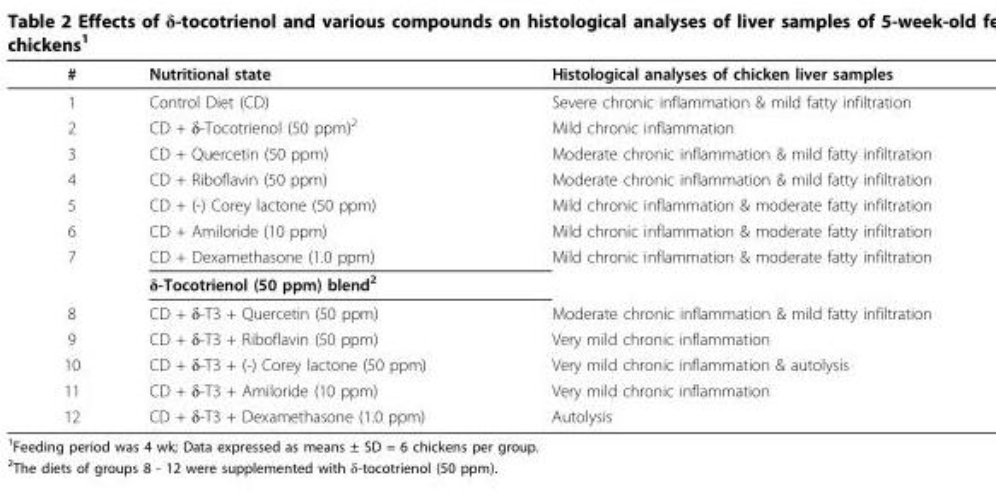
<table><thead><tr><td>#</td><td>Nutritional state</td><td>Histological analyses of chicken liver samples</td></tr></thead><tbody><tr><td>1</td><td>Control Diet (CD)</td><td>Severe chronic inflammation &amp; mild fatty infiltration</td></tr><tr><td>2</td><td>CD + δ-Tocotrienol (50 ppm)<sup>2</sup></td><td>Mild chronic inflammation</td></tr><tr><td>3</td><td>CD + Quercetin (50 ppm)</td><td>Moderate chronic inflammation &amp; mild fatty infiltration</td></tr><tr><td>4</td><td>CD + Riboflavin (50 ppm)</td><td>Moderate chronic inflammation &amp; mild fatty infiltration</td></tr><tr><td>5</td><td>CD + (-) Corey lactone (50 ppm)</td><td>Mild chronic inflammation &amp; moderate fatty infiltration</td></tr><tr><td>6</td><td>CD + Amiloride (10 ppm)</td><td>Mild chronic inflammation &amp; moderate fatty infiltration</td></tr><tr><td rowspan="2">7</td><td>CD + Dexamethasone (1.0 ppm)</td><td>Mild chronic inflammation &amp; moderate fatty infiltration</td></tr><tr><td>δ-Tocotrienol (50 ppm) blend<sup>2</sup></td><td></td></tr><tr><td>8</td><td>CD + δ-T3 + Quercetin (50 ppm)</td><td>Moderate chronic inflammation &amp; mild fatty infiltration</td></tr><tr><td>9</td><td>CD + δ-T3 + Riboflavin (50 ppm)</td><td>Very mild chronic inflammation</td></tr><tr><td>10</td><td>CD + δ-T3 + (-) Corey lactone (50 ppm)</td><td>Very mild chronic inflammation &amp; autolysis</td></tr><tr><td>11</td><td>CD + δ-T3 + Amiloride (10 ppm)</td><td>Very mild chronic inflammation</td></tr><tr><td>12</td><td>CD + δ-T3 + Dexamethasone (1.0 ppm)</td><td>Autolysis</td></tr></tbody></table>